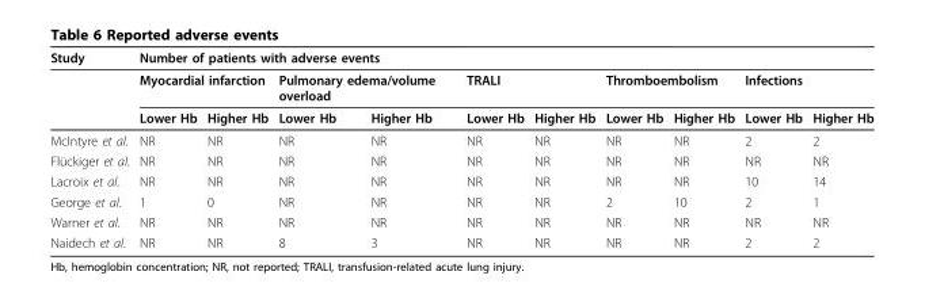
<table><thead><tr><td rowspan="3">Study</td><td colspan="10">Number of patients with adverse events</td></tr><tr><td colspan="2">Myocardial infarction</td><td colspan="2">Pulmonary edema/volume overload</td><td colspan="2">TRALI</td><td colspan="2">Thromboembolism</td><td colspan="2">Infections</td></tr><tr><td>Lower Hb</td><td>Higher Hb</td><td>Lower Hb</td><td>Higher Hb</td><td>Lower Hb</td><td>Higher Hb</td><td>Lower Hb</td><td>Higher Hb</td><td>Lower Hb</td><td>Higher Hb</td></tr></thead><tbody><tr><td>McIntyre et al.</td><td>NR</td><td>NR</td><td>NR</td><td>NR</td><td>NR</td><td>NR</td><td>NR</td><td>NR</td><td>2</td><td>2</td></tr><tr><td>Flückiger et al.</td><td>NR</td><td>NR</td><td>NR</td><td>NR</td><td>NR</td><td>NR</td><td>NR</td><td>NR</td><td>NR</td><td>NR</td></tr><tr><td>Lacroix et al.</td><td>NR</td><td>NR</td><td>NR</td><td>NR</td><td>NR</td><td>NR</td><td>NR</td><td>NR</td><td>10</td><td>14</td></tr><tr><td>George et al.</td><td>1</td><td>0</td><td>NR</td><td>NR</td><td>NR</td><td>NR</td><td>2</td><td>10</td><td>2</td><td>1</td></tr><tr><td>Warner et al.</td><td>NR</td><td>NR</td><td>NR</td><td>NR</td><td>NR</td><td>NR</td><td>NR</td><td>NR</td><td>NR</td><td>NR</td></tr><tr><td>Naidech et al.</td><td>NR</td><td>NR</td><td>8</td><td>3</td><td>NR</td><td>NR</td><td>NR</td><td>NR</td><td>2</td><td>2</td></tr></tbody></table>